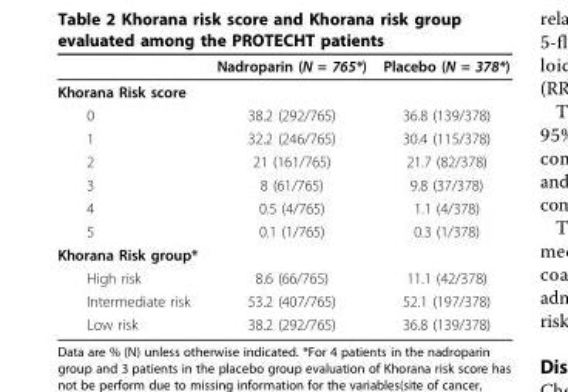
<table><thead><tr><td></td><td>Nadroparin (N = 765*)</td><td>Placebo (N = 378*)</td></tr></thead><tbody><tr><td colspan="3">Khorana Risk score</td></tr><tr><td>0</td><td>38.2 (292/765)</td><td>36.8 (139/378)</td></tr><tr><td>1</td><td>32.2 (246/765)</td><td>30.4 (115/378)</td></tr><tr><td>2</td><td>21 (161/765)</td><td>21.7 (82/378)</td></tr><tr><td>3</td><td>8 (61/765)</td><td>9.8 (37/378)</td></tr><tr><td>4</td><td>0.5 (4/765)</td><td>1.1 (4/378)</td></tr><tr><td>5</td><td>0.1 (1/765)</td><td>0.3 (1/378)</td></tr><tr><td colspan="3">Khorana Risk group*</td></tr><tr><td>High risk</td><td>8.6 (66/765)</td><td>11.1 (42/378)</td></tr><tr><td>Intermediate risk</td><td>53.2 (407/765)</td><td>52.1 (197/378)</td></tr><tr><td>Low risk</td><td>38.2 (292/765)</td><td>36.8 (139/378)</td></tr></tbody></table>